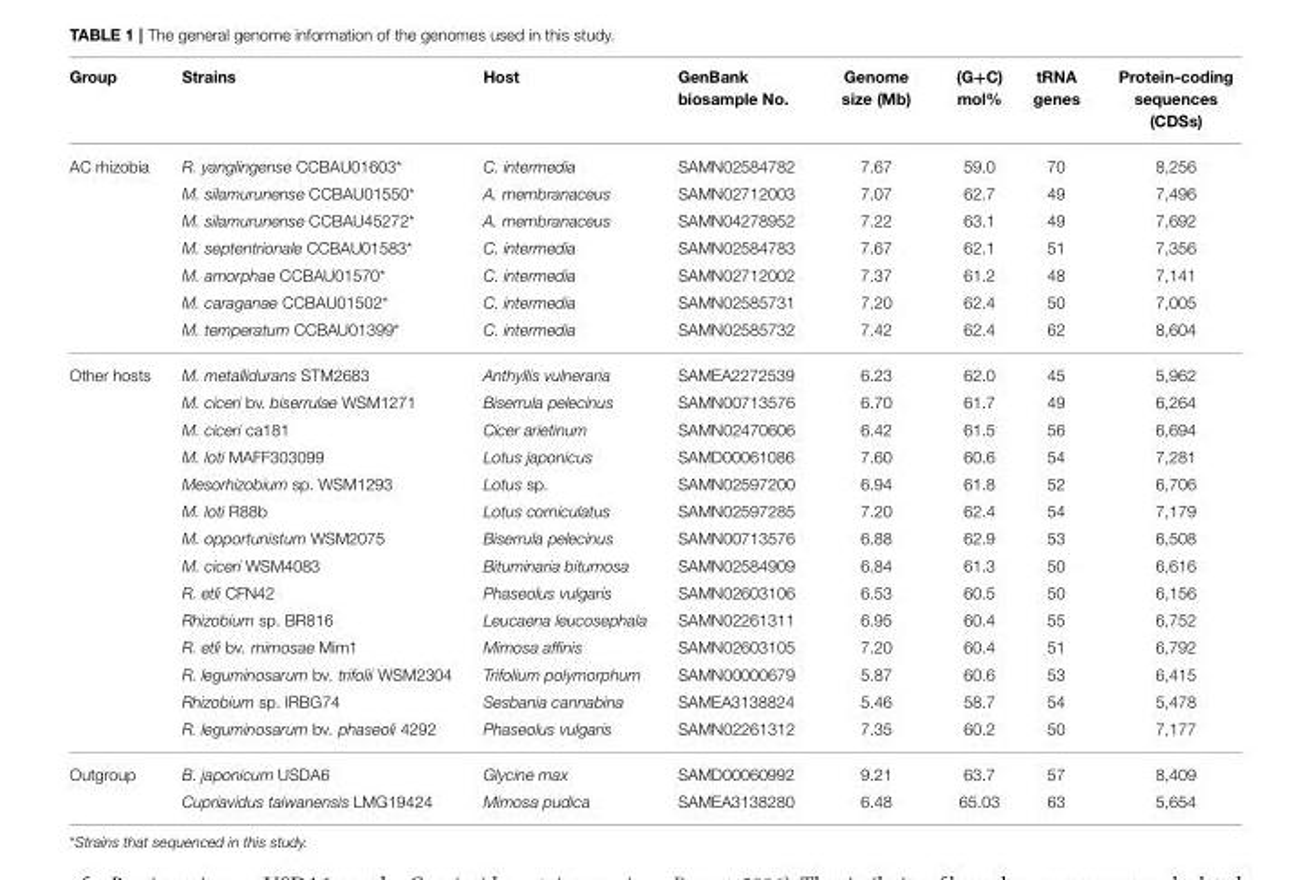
<table><thead><tr><td>Group</td><td>Strains</td><td>Host</td><td>GenBank biosample No.</td><td>Genome size (Mb)</td><td>(G+C) mol%</td><td>tRNA genes</td><td>Protein-coding sequences (CDSs)</td></tr></thead><tbody><tr><td rowspan="7">AC rhizobia</td><td>R. yanglingense CCBAU01603*</td><td>C. intermedia</td><td>SAMN02584782</td><td>7.67</td><td>59.0</td><td>70</td><td>8,256</td></tr><tr><td>M. silamurunense CCBAU01550*</td><td>A. membranaceus</td><td>SAMN02712003</td><td>7.07</td><td>62.7</td><td>49</td><td>7,496</td></tr><tr><td>M. silamurunense CCBAU45272*</td><td>A. membranaceus</td><td>SAMN04278952</td><td>7.22</td><td>63.1</td><td>49</td><td>7,692</td></tr><tr><td>M. septentrionale CCBAU01583*</td><td>C. intermedia</td><td>SAMN02584783</td><td>7.67</td><td>62.1</td><td>51</td><td>7,356</td></tr><tr><td>M. amorphae CCBAU01570*</td><td>C. intermedia</td><td>SAMN02712002</td><td>7.37</td><td>61.2</td><td>48</td><td>7,141</td></tr><tr><td>M. caraganae CCBAU01502*</td><td>C. intermedia</td><td>SAMN02585731</td><td>7.20</td><td>62.4</td><td>50</td><td>7,005</td></tr><tr><td>M. temperatum CCBAU01399*</td><td>C. intermedia</td><td>SAMN02585732</td><td>7.42</td><td>62.4</td><td>62</td><td>8,604</td></tr><tr><td rowspan="14">Other hosts</td><td>M. metallidurans STM2683</td><td>Anthyllis vulneraria</td><td>SAMEA2272539</td><td>6.23</td><td>62.0</td><td>45</td><td>5,962</td></tr><tr><td>M. ciceri bv. biserrulae WSM1271</td><td>Biserrula pelecinus</td><td>SAMN00713576</td><td>6.70</td><td>61.7</td><td>49</td><td>6,264</td></tr><tr><td>M. ciceri ca181</td><td>Cicer arietinum</td><td>SAMN02470606</td><td>6.42</td><td>61.5</td><td>56</td><td>6,694</td></tr><tr><td>M. loti MAFF303099</td><td>Lotus japonicus</td><td>SAMD00061086</td><td>7.60</td><td>60.6</td><td>54</td><td>7,281</td></tr><tr><td>Mesorhizobium sp. WSM1293</td><td>Lotus sp.</td><td>SAMN02597200</td><td>6.94</td><td>61.8</td><td>52</td><td>6,706</td></tr><tr><td>M. loti R88b</td><td>Lotus corniculatus</td><td>SAMN02597285</td><td>7.20</td><td>62.4</td><td>54</td><td>7,179</td></tr><tr><td>M. opportunistum WSM2075</td><td>Biserrula pelecinus</td><td>SAMN00713576</td><td>6.88</td><td>62.9</td><td>53</td><td>6,508</td></tr><tr><td>M. ciceri WSM4083</td><td>Bituminaria bitumosa</td><td>SAMN02584909</td><td>6.84</td><td>61.3</td><td>50</td><td>6,616</td></tr><tr><td>R. etli CFN42</td><td>Phaseolus vulgaris</td><td>SAMN02603106</td><td>6.53</td><td>60.5</td><td>50</td><td>6,156</td></tr><tr><td>Rhizobium sp. BR816</td><td>Leucaena leucosephala</td><td>SAMN02261311</td><td>6.95</td><td>60.4</td><td>55</td><td>6,752</td></tr><tr><td>R. etli bv. mimosae Mim1</td><td>Mimosa affinis</td><td>SAMN02603105</td><td>7.20</td><td>60.4</td><td>51</td><td>6,792</td></tr><tr><td>R. leguminosarum bv. trifolii WSM2304</td><td>Trifolium polymorphum</td><td>SAMN00000679</td><td>5.87</td><td>60.6</td><td>53</td><td>6,415</td></tr><tr><td>Rhizobium sp. IRBG74</td><td>Sesbania cannabina</td><td>SAMEA3138824</td><td>5.46</td><td>58.7</td><td>54</td><td>5,478</td></tr><tr><td>R. leguminosarum bv. phaseoli 4292</td><td>Phaseolus vulgaris</td><td>SAMN02261312</td><td>7.35</td><td>60.2</td><td>50</td><td>7,177</td></tr><tr><td rowspan="2">Outgroup</td><td>B. japonicum USDA6</td><td>Glycine max</td><td>SAMD00060992</td><td>9.21</td><td>63.7</td><td>57</td><td>8,409</td></tr><tr><td>Cupriavidus taiwanensis LMG19424</td><td>Mimosa pudica</td><td>SAMEA3138280</td><td>6.48</td><td>65.03</td><td>63</td><td>5,654</td></tr></tbody></table>